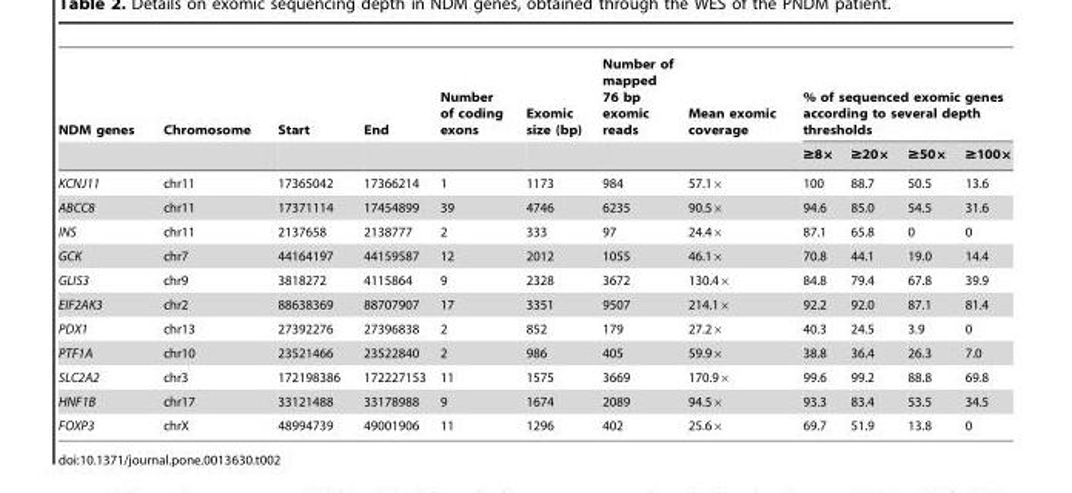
<table><thead><tr><td rowspan="2">NDM genes</td><td rowspan="2">Chromosome</td><td rowspan="2">Start</td><td rowspan="2">End</td><td rowspan="2">Number of coding exons</td><td rowspan="2">Exomic size (bp)</td><td rowspan="2">Number of mapped 76 bp exomic reads</td><td rowspan="2">Mean exomic coverage</td><td colspan="4">% of sequenced exomic genes according to several depth thresholds</td></tr><tr><td>≥8×</td><td>≥20×</td><td>≥50×</td><td>≥100×</td></tr></thead><tbody><tr><td>KCNJ11</td><td>chr11</td><td>17365042</td><td>17366214</td><td>1</td><td>1173</td><td>984</td><td>57.1×</td><td>100</td><td>88.7</td><td>50.5</td><td>13.6</td></tr><tr><td>ABCC8</td><td>chr11</td><td>17371114</td><td>17454899</td><td>39</td><td>4746</td><td>6235</td><td>90.5×</td><td>94.6</td><td>85.0</td><td>54.5</td><td>31.6</td></tr><tr><td>INS</td><td>chr11</td><td>2137658</td><td>2138777</td><td>2</td><td>333</td><td>97</td><td>24.4×</td><td>87.1</td><td>65.8</td><td>0</td><td>0</td></tr><tr><td>GCK</td><td>chr7</td><td>44164197</td><td>44159587</td><td>12</td><td>2012</td><td>1055</td><td>46.1×</td><td>70.8</td><td>44.1</td><td>19.0</td><td>14.4</td></tr><tr><td>GLIS3</td><td>chr9</td><td>3818272</td><td>4115864</td><td>9</td><td>2328</td><td>3672</td><td>130.4×</td><td>84.8</td><td>79.4</td><td>67.8</td><td>39.9</td></tr><tr><td>EIF2AK3</td><td>chr2</td><td>88638369</td><td>88707907</td><td>17</td><td>3351</td><td>9507</td><td>214.1×</td><td>92.2</td><td>92.0</td><td>87.1</td><td>81.4</td></tr><tr><td>PDX1</td><td>chr13</td><td>27392276</td><td>27396838</td><td>2</td><td>852</td><td>179</td><td>27.2×</td><td>40.3</td><td>24.5</td><td>3.9</td><td>0</td></tr><tr><td>PTF1A</td><td>chr10</td><td>23521466</td><td>23522840</td><td>2</td><td>986</td><td>405</td><td>59.9×</td><td>38.8</td><td>36.4</td><td>26.3</td><td>7.0</td></tr><tr><td>SLC2A2</td><td>chr3</td><td>172198386</td><td>172227153</td><td>11</td><td>1575</td><td>3669</td><td>170.9×</td><td>99.6</td><td>99.2</td><td>88.8</td><td>69.8</td></tr><tr><td>HNF1B</td><td>chr17</td><td>33121488</td><td>33178988</td><td>9</td><td>1674</td><td>2089</td><td>94.5×</td><td>93.3</td><td>83.4</td><td>53.5</td><td>34.5</td></tr><tr><td>FOXP3</td><td>chrX</td><td>48994739</td><td>49001906</td><td>11</td><td>1296</td><td>402</td><td>25.6×</td><td>69.7</td><td>51.9</td><td>13.8</td><td>0</td></tr></tbody></table>